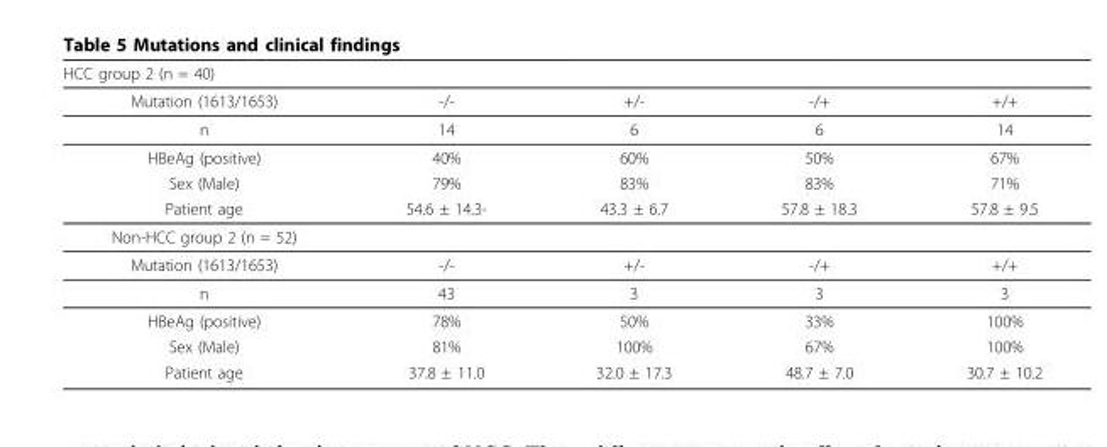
<table><thead><tr><td>HCC group 2 (n = 40)</td><td></td><td></td><td></td><td></td></tr></thead><tbody><tr><td>Mutation (1613/1653)</td><td>-/-</td><td>+/-</td><td>-/+</td><td>+/+</td></tr><tr><td>n</td><td>14</td><td>6</td><td>6</td><td>14</td></tr><tr><td>HBeAg (positive)</td><td>40%</td><td>60%</td><td>50%</td><td>67%</td></tr><tr><td>Sex (Male)</td><td>79%</td><td>83%</td><td>83%</td><td>71%</td></tr><tr><td>Patient age</td><td>54.6 ± 14.3-</td><td>43.3 ± 6.7</td><td>57.8 ± 18.3</td><td>57.8 ± 9.5</td></tr><tr><td colspan="5">Non-HCC group 2 (n = 52)</td></tr><tr><td>Mutation (1613/1653)</td><td>-/-</td><td>+/-</td><td>-/+</td><td>+/+</td></tr><tr><td>n</td><td>43</td><td>3</td><td>3</td><td>3</td></tr><tr><td>HBeAg (positive)</td><td>78%</td><td>50%</td><td>33%</td><td>100%</td></tr><tr><td>Sex (Male)</td><td>81%</td><td>100%</td><td>67%</td><td>100%</td></tr><tr><td>Patient age</td><td>37.8 ± 11.0</td><td>32.0 ± 17.3</td><td>48.7 ± 7.0</td><td>30.7 ± 10.2</td></tr></tbody></table>